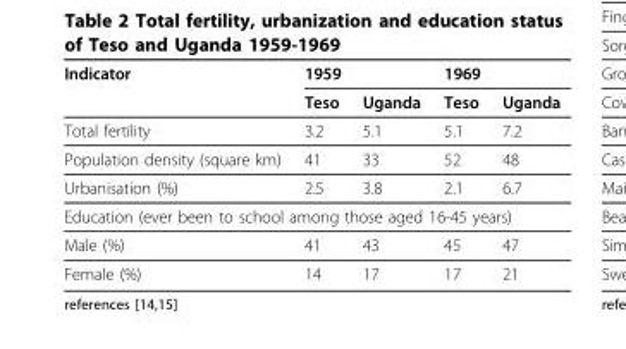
<table><thead><tr><td rowspan="2">Indicator</td><td colspan="2">1959</td><td colspan="2">1969</td></tr><tr><td>Teso</td><td>Uganda</td><td>Teso</td><td>Uganda</td></tr></thead><tbody><tr><td>Total fertility</td><td>3.2</td><td>5.1</td><td>5.1</td><td>7.2</td></tr><tr><td>Population density (square km)</td><td>41</td><td>33</td><td>52</td><td>48</td></tr><tr><td>Urbanisation (%)</td><td>2.5</td><td>3.8</td><td>2.1</td><td>6.7</td></tr><tr><td colspan="5">Education (ever been to school among those aged 16-45 years)</td></tr><tr><td>Male (%)</td><td>41</td><td>43</td><td>45</td><td>47</td></tr><tr><td>Female (%)</td><td>14</td><td>17</td><td>17</td><td>21</td></tr></tbody></table>